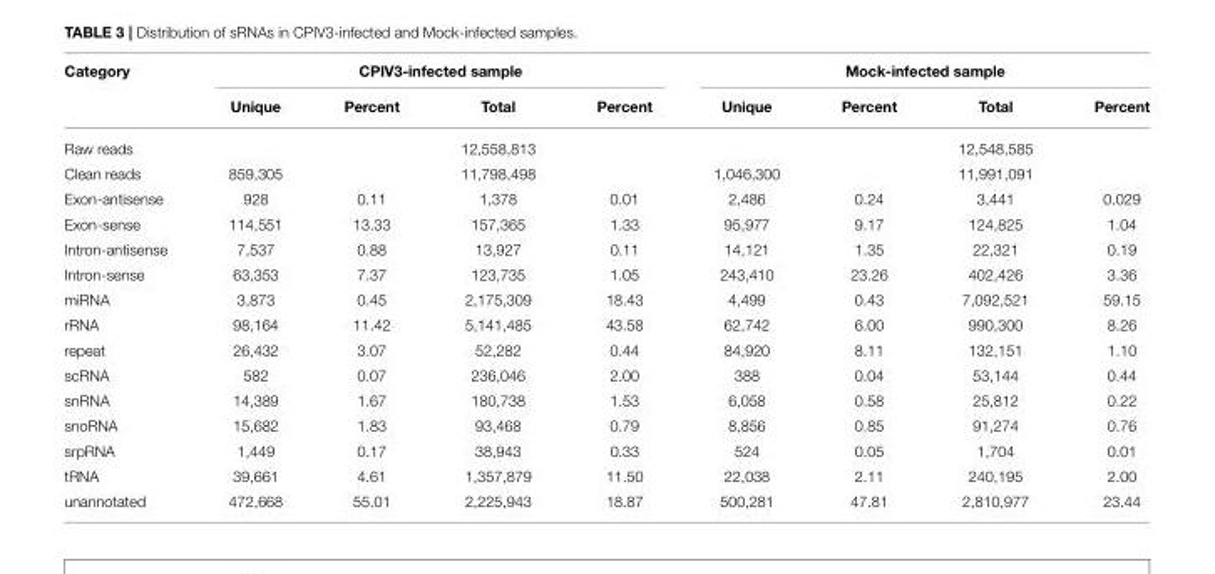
<table><thead><tr><td rowspan="2">Category</td><td colspan="4">CPIV3-infected sample</td><td colspan="4">Mock-infected sample</td></tr><tr><td>Unique</td><td>Percent</td><td>Total</td><td>Percent</td><td>Unique</td><td>Percent</td><td>Total</td><td>Percent</td></tr></thead><tbody><tr><td>Raw reads</td><td></td><td></td><td>12,558,813</td><td></td><td></td><td></td><td>12,548,585</td><td></td></tr><tr><td>Clean reads</td><td>859,305</td><td></td><td>11,798,498</td><td></td><td>1,046,300</td><td></td><td>11,991,091</td><td></td></tr><tr><td>Exon-antisense</td><td>928</td><td>0.11</td><td>1,378</td><td>0.01</td><td>2,486</td><td>0.24</td><td>3,441</td><td>0.029</td></tr><tr><td>Exon-sense</td><td>114,551</td><td>13.33</td><td>157,365</td><td>1.33</td><td>95,977</td><td>9.17</td><td>124,825</td><td>1.04</td></tr><tr><td>Intron-antisense</td><td>7,537</td><td>0.88</td><td>13,927</td><td>0.11</td><td>14,121</td><td>1.35</td><td>22,321</td><td>0.19</td></tr><tr><td>Intron-sense</td><td>63,353</td><td>7.37</td><td>123,735</td><td>1.05</td><td>243,410</td><td>23.26</td><td>402,426</td><td>3.36</td></tr><tr><td>miRNA</td><td>3,873</td><td>0.45</td><td>2,175,309</td><td>18.43</td><td>4,499</td><td>0.43</td><td>7,092,521</td><td>59.15</td></tr><tr><td>rRNA</td><td>98,164</td><td>11.42</td><td>5,141,485</td><td>43.58</td><td>62,742</td><td>6.00</td><td>990,300</td><td>8.26</td></tr><tr><td>repeat</td><td>26,432</td><td>3.07</td><td>52,282</td><td>0.44</td><td>84,920</td><td>8.11</td><td>132,151</td><td>1.10</td></tr><tr><td>scRNA</td><td>582</td><td>0.07</td><td>236,046</td><td>2.00</td><td>388</td><td>0.04</td><td>53,144</td><td>0.44</td></tr><tr><td>snRNA</td><td>14,389</td><td>1.67</td><td>180,738</td><td>1.53</td><td>6,058</td><td>0.58</td><td>25,812</td><td>0.22</td></tr><tr><td>snoRNA</td><td>15,682</td><td>1.83</td><td>93,468</td><td>0.79</td><td>8,856</td><td>0.85</td><td>91,274</td><td>0.76</td></tr><tr><td>srpRNA</td><td>1,449</td><td>0.17</td><td>38,943</td><td>0.33</td><td>524</td><td>0.05</td><td>1,704</td><td>0.01</td></tr><tr><td>tRNA</td><td>39,661</td><td>4.61</td><td>1,357,879</td><td>11.50</td><td>22,038</td><td>2.11</td><td>240,195</td><td>2.00</td></tr><tr><td>unannotated</td><td>472,668</td><td>55.01</td><td>2,225,943</td><td>18.87</td><td>500,281</td><td>47.81</td><td>2,810,977</td><td>23.44</td></tr></tbody></table>